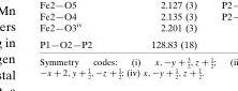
<table><tbody><tr><td>P1—O2—P2</td><td>128.83 (18)</td></tr></tbody></table>